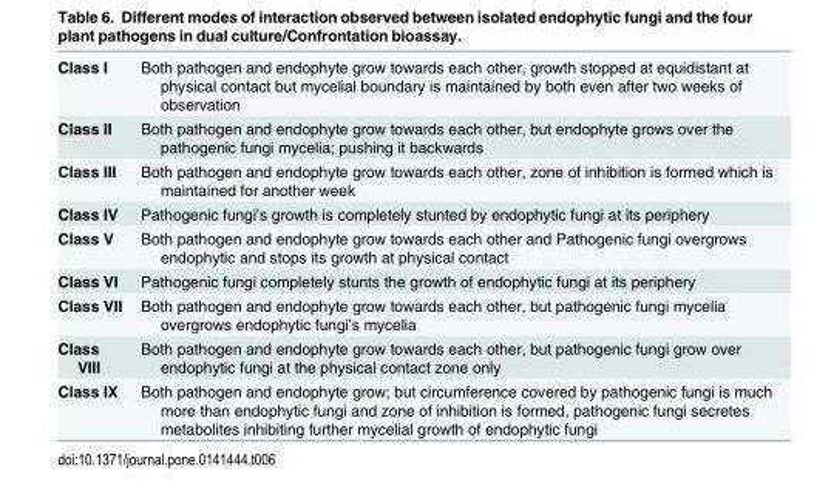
<table><tbody><tr><td>Class I</td><td>Both pathogen and endophyte grow towards each other, growth stopped at equidistant at physical contact but mycelial boundary is maintained by both even after two weeks of observation</td></tr><tr><td>Class II</td><td>Both pathogen and endophyte grow towards each other, but endophyte grows over the pathogenic fungi mycelia; pushing it backwards</td></tr><tr><td>Class III</td><td>Both pathogen and endophyte grow towards each other, zone of inhibition is formed which is maintained for another week</td></tr><tr><td>Class IV</td><td>Pathogenic fungi’s growth is completely stunted by endophytic fungi at its periphery</td></tr><tr><td>Class V</td><td>Both pathogen and endophyte grow towards each other and Pathogenic fungi overgrows endophytic and stops its growth at physical contact</td></tr><tr><td>Class VI</td><td>Pathogenic fungi completely stunts the growth of endophytic fungi at its periphery</td></tr><tr><td>Class VII</td><td>Both pathogen and endophyte grow towards each other, but pathogenic fungi mycelia overgrows endophytic fungi’s mycelia</td></tr><tr><td>Class VIII</td><td>Both pathogen and endophyte grow towards each other, but pathogenic fungi grow over endophytic fungi at the physical contact zone only</td></tr><tr><td>Class IX</td><td>Both pathogen and endophyte grow; but circumference covered by pathogenic fungi is much more than endophytic fungi and zone of inhibition is formed, pathogenic fungi secretes metabolites inhibiting further mycelial growth of endophytic fungi</td></tr></tbody></table>